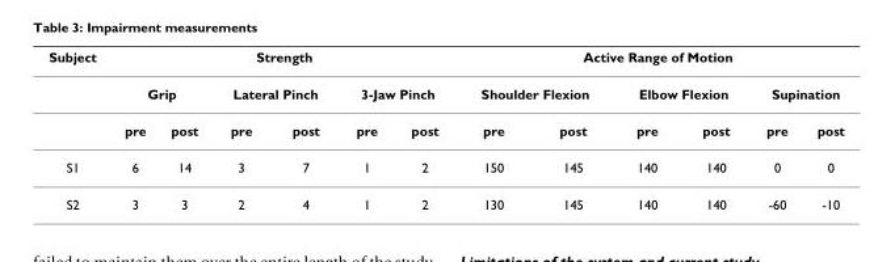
<table><thead><tr><td rowspan="3">Subject</td><td colspan="6">Strength</td><td colspan="6">Active Range of Motion</td></tr><tr><td colspan="2">Grip</td><td colspan="2">Lateral Pinch</td><td colspan="2">3-Jaw Pinch</td><td colspan="2">Shoulder Flexion</td><td colspan="2">Elbow Flexion</td><td colspan="2">Supination</td></tr><tr><td>pre</td><td>post</td><td>pre</td><td>post</td><td>pre</td><td>post</td><td>pre</td><td>post</td><td>pre</td><td>post</td><td>pre</td><td>post</td></tr></thead><tbody><tr><td>S1</td><td>6</td><td>14</td><td>3</td><td>7</td><td>1</td><td>2</td><td>150</td><td>145</td><td>140</td><td>140</td><td>0</td><td>0</td></tr><tr><td>S2</td><td>3</td><td>3</td><td>2</td><td>4</td><td>1</td><td>2</td><td>130</td><td>145</td><td>140</td><td>140</td><td>-60</td><td>-10</td></tr></tbody></table>